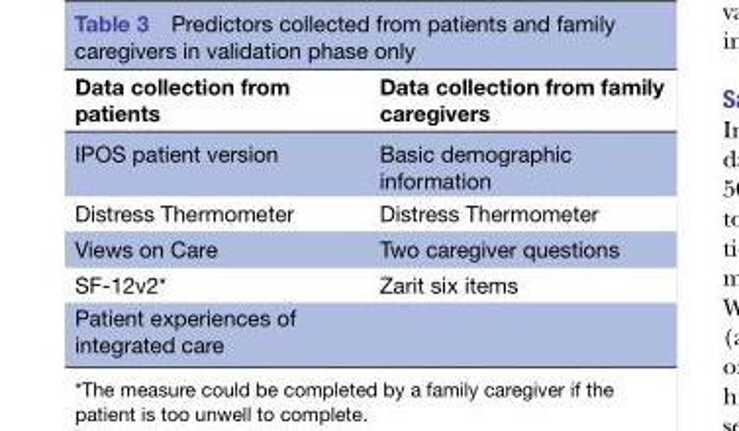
<table><thead><tr><td>Data collection from patients</td><td>Data collection from family caregivers</td></tr></thead><tbody><tr><td>IPOS patient version</td><td>Basic demographic information</td></tr><tr><td>Distress Thermometer</td><td>Distress Thermometer</td></tr><tr><td>Views on Care</td><td>Two caregiver questions</td></tr><tr><td>SF-12v2*</td><td>Zarit six items</td></tr><tr><td>Patient experiences of integrated care</td><td></td></tr></tbody></table>